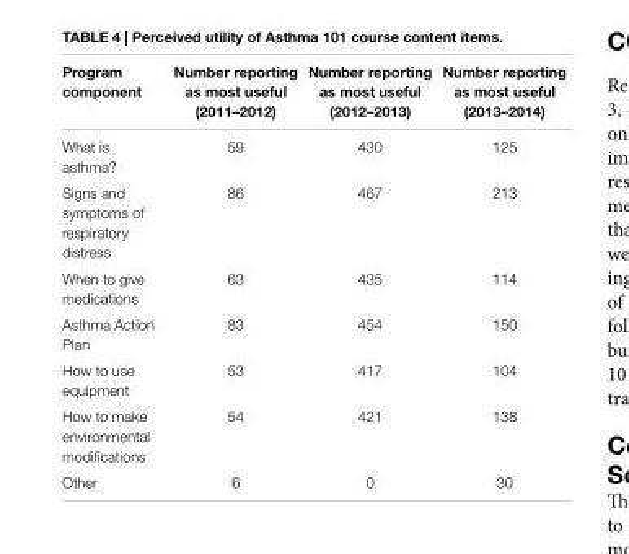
<table><thead><tr><td>Program component</td><td>number reporting as most useful (2011–2012)</td><td>number reporting as most useful (2012–2013)</td><td>number reporting as most useful (2013–2014)</td></tr></thead><tbody><tr><td>What is asthma?</td><td>59</td><td>430</td><td>125</td></tr><tr><td>Signs and symptoms of respiratory distress</td><td>86</td><td>467</td><td>213</td></tr><tr><td>When to give medications</td><td>63</td><td>435</td><td>114</td></tr><tr><td>Asthma Action Plan</td><td>83</td><td>454</td><td>150</td></tr><tr><td>How to use equipment</td><td>53</td><td>417</td><td>104</td></tr><tr><td>How to make environmental modifications</td><td>54</td><td>421</td><td>138</td></tr><tr><td>Other</td><td>6</td><td>0</td><td>30</td></tr></tbody></table>